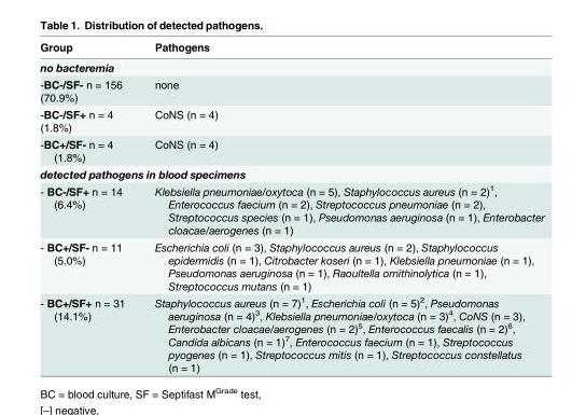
<table><thead><tr><td>Group</td><td>Pathogens</td></tr></thead><tbody><tr><td colspan="2">no bacteremia</td></tr><tr><td>-BC-/SF- n = 156 (70.9%)</td><td>none</td></tr><tr><td>-BC-/SF+ n = 4 (1.8%)</td><td>CoNS (n = 4)</td></tr><tr><td>-BC+/SF- n = 4 (1.8%)</td><td>CoNS (n = 4)</td></tr><tr><td colspan="2">detected pathogens in blood specimens</td></tr><tr><td>- BC-/SF+ n = 14 (6.4%)</td><td>Klebsiella pneumoniae/oxytoca (n = 5), Staphylococcus aureus (n = 2)<sup>1</sup>, Enterococcus faecium (n = 2), Streptococcus pneumoniae (n = 2), Streptococcus species (n = 1), Pseudomonas aeruginosa (n = 1), Enterobacter cloacae/aerogenes (n = 1)</td></tr><tr><td>- BC+/SF- n = 11 (5.0%)</td><td>Escherichia coli (n = 3), Staphylococcus aureus (n = 2), Staphylococcus epidermidis (n = 1), Citrobacter koseri (n = 1), Klebsiella pneumoniae (n = 1), Pseudomonas aeruginosa (n = 1), Raoultella ornithinolytica (n = 1), Streptococcus mutans (n = 1)</td></tr><tr><td>- BC+/SF+ n = 31 (14.1%)</td><td>Staphylococcus aureus (n = 7)<sup>1</sup>, Escherichia coli (n = 5)<sup>2</sup>, Pseudomonas aeruginosa (n = 4)<sup>3</sup>, Klebsiella pneumoniae/oxytoca (n = 3)<sup>4</sup>, CoNS (n = 3), Enterobacter cloacae/aerogenes (n = 2)<sup>5</sup>, Enterococcus faecalis (n = 2)<sup>6</sup>, Candida albicans (n = 1)<sup>7</sup>, Enterococcus faecium (n = 1), Streptococcus pyogenes (n = 1), Streptococcus mitis (n = 1), Streptococcus constellatus (n = 1)</td></tr></tbody></table>